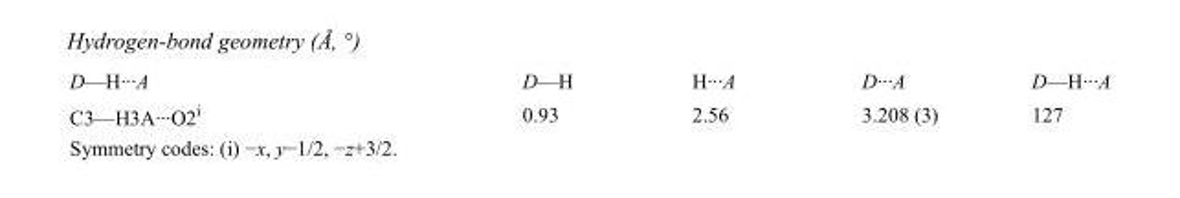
<table><tbody><tr><td>D—H···A</td><td>D—H</td><td>H···A</td><td>D···A</td><td>D—H···A</td></tr><tr><td>C3—H3A···O2<sup>i</sup></td><td>0.93</td><td>2.56</td><td>3.208 (3)</td><td>127</td></tr></tbody></table>